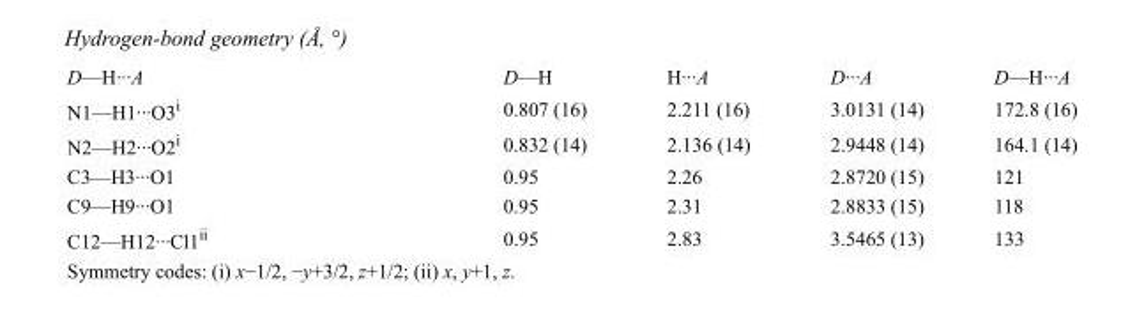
<table><tbody><tr><td>D—H···A</td><td>D—H</td><td>H···A</td><td>D···A</td><td>D—H···A</td></tr><tr><td>N1—H1···O3<sup>i</sup></td><td>0.807 (16)</td><td>2.211 (16)</td><td>3.0131 (14)</td><td>172.8 (16)</td></tr><tr><td>N2—H2···O2<sup>i</sup></td><td>0.832 (14)</td><td>2.136 (14)</td><td>2.9448 (14)</td><td>164.1 (14)</td></tr><tr><td>C3—H3···O1</td><td>0.95</td><td>2.26</td><td>2.8720 (15)</td><td>121</td></tr><tr><td>C9—H9···O1</td><td>0.95</td><td>2.31</td><td>2.8833 (15)</td><td>118</td></tr><tr><td>C12—H12···Cl1<sup>ii</sup></td><td>0.95</td><td>2.83</td><td>3.5465 (13)</td><td>133</td></tr></tbody></table>